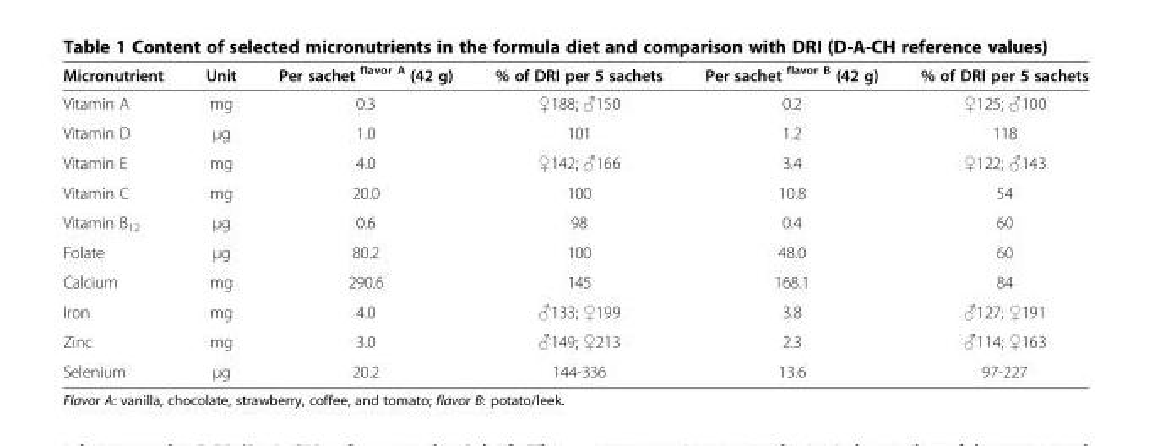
<table><thead><tr><td>Micronutrient</td><td>Unit</td><td>Per sachet <sup>flavor A</sup> (42 g)</td><td>% of DRI per 5 sachets</td><td>Per sachet <sup>flavor B</sup> (42 g)</td><td>% of DRI per 5 sachets</td></tr></thead><tbody><tr><td>Vitamin A</td><td>mg</td><td>0.3</td><td>♀188; ♂150</td><td>0.2</td><td>♀125; ♂100</td></tr><tr><td>Vitamin D</td><td>μg</td><td>1.0</td><td>101</td><td>1.2</td><td>118</td></tr><tr><td>Vitamin E</td><td>mg</td><td>4.0</td><td>♀142; ♂166</td><td>3.4</td><td>♀122; ♂143</td></tr><tr><td>Vitamin C</td><td>mg</td><td>20.0</td><td>100</td><td>10.8</td><td>54</td></tr><tr><td>Vitamin B<sub>12</sub></td><td>μg</td><td>0.6</td><td>98</td><td>0.4</td><td>60</td></tr><tr><td>Folate</td><td>μg</td><td>80.2</td><td>100</td><td>48.0</td><td>60</td></tr><tr><td>Calcium</td><td>mg</td><td>290.6</td><td>145</td><td>168.1</td><td>84</td></tr><tr><td>Iron</td><td>mg</td><td>4.0</td><td>♂133; ♀199</td><td>3.8</td><td>♂127; ♀191</td></tr><tr><td>Zinc</td><td>mg</td><td>3.0</td><td>♂149; ♀213</td><td>2.3</td><td>♂114; ♀163</td></tr><tr><td>Selenium</td><td>μg</td><td>20.2</td><td>144-336</td><td>13.6</td><td>97-227</td></tr></tbody></table>